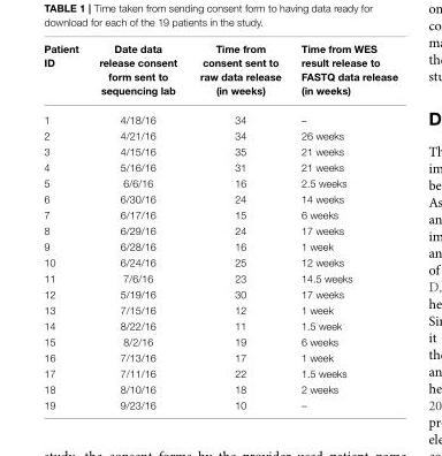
<table><thead><tr><td>Patient ID</td><td>Date data release consent form sent to sequencing lab</td><td>Time from consent sent to raw data release (in weeks)</td><td>Time from WES result release to FASTQ data release (in weeks)</td></tr></thead><tbody><tr><td>1</td><td>4/18/16</td><td>34</td><td>–</td></tr><tr><td>2</td><td>4/21/16</td><td>34</td><td>26 weeks</td></tr><tr><td>3</td><td>4/15/16</td><td>35</td><td>21 weeks</td></tr><tr><td>4</td><td>5/16/16</td><td>31</td><td>21 weeks</td></tr><tr><td>5</td><td>6/6/16</td><td>16</td><td>2.5 weeks</td></tr><tr><td>6</td><td>6/30/16</td><td>24</td><td>14 weeks</td></tr><tr><td>7</td><td>6/17/16</td><td>15</td><td>6 weeks</td></tr><tr><td>8</td><td>6/29/16</td><td>24</td><td>17 weeks</td></tr><tr><td>9</td><td>6/28/16</td><td>16</td><td>1 week</td></tr><tr><td>10</td><td>6/24/16</td><td>25</td><td>12 weeks</td></tr><tr><td>11</td><td>7/6/16</td><td>23</td><td>14.5 weeks</td></tr><tr><td>12</td><td>5/19/16</td><td>30</td><td>17 weeks</td></tr><tr><td>13</td><td>7/15/16</td><td>12</td><td>1 week</td></tr><tr><td>14</td><td>8/22/16</td><td>11</td><td>1.5 week</td></tr><tr><td>15</td><td>8/2/16</td><td>19</td><td>6 weeks</td></tr><tr><td>16</td><td>7/13/16</td><td>17</td><td>1 week</td></tr><tr><td>17</td><td>7/11/16</td><td>22</td><td>1.5 weeks</td></tr><tr><td>18</td><td>8/10/16</td><td>18</td><td>2 weeks</td></tr><tr><td>19</td><td>9/23/16</td><td>10</td><td>–</td></tr></tbody></table>